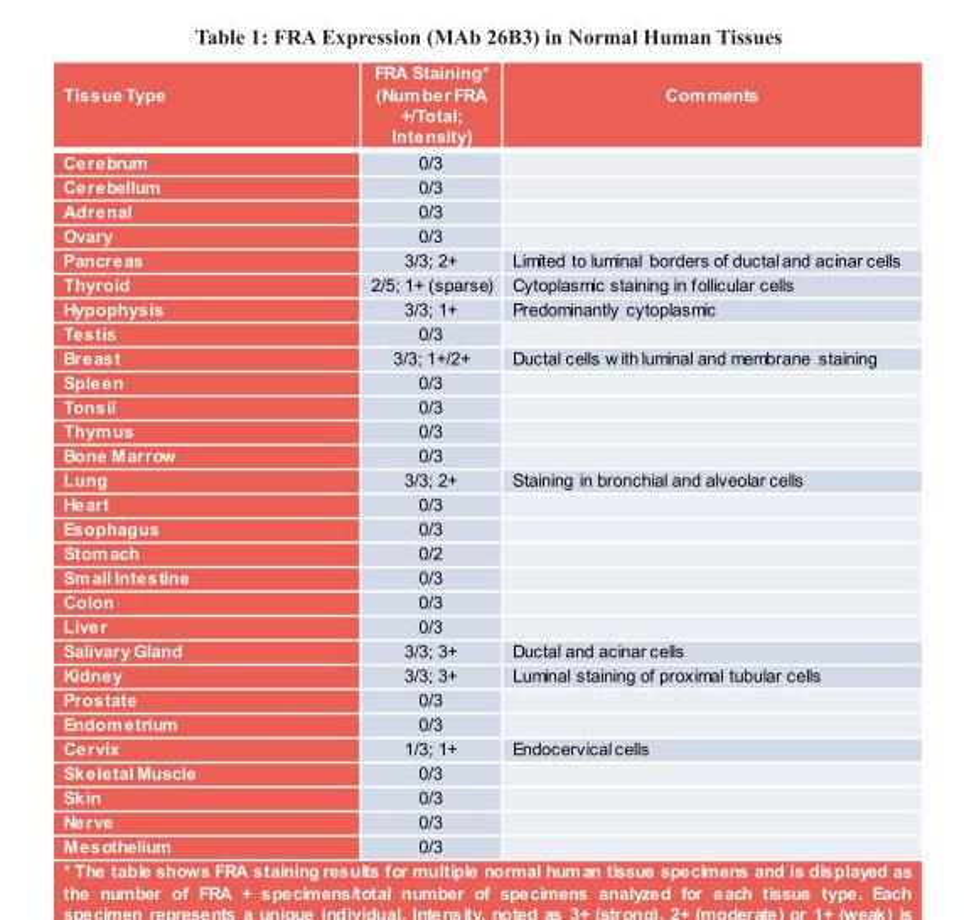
<table><thead><tr><td>Tissue Type</td><td>FRA Staining* (Number FRA +/Total; Intensity)</td><td>Comments</td></tr></thead><tbody><tr><td>Cerebrum</td><td>0/3</td><td></td></tr><tr><td>Cerebellum</td><td>0/3</td><td></td></tr><tr><td>Adrenal</td><td>0/3</td><td></td></tr><tr><td>Ovary</td><td>0/3</td><td></td></tr><tr><td>Pancreas</td><td>3/3; 2+</td><td>Limited to luminal borders of ductaland acinar cells</td></tr><tr><td>Thyroid</td><td>2/5; 1+ (sparse)</td><td>Cytoplasmic staining in follicular cells</td></tr><tr><td>Hypophysis</td><td>3/3; 1+</td><td>Predominantly cytoplasmic</td></tr><tr><td>Testis</td><td>0/3</td><td></td></tr><tr><td>Breast</td><td>3/3; 1+/2+</td><td>Ductal cells w ith luminal and membrane staining</td></tr><tr><td>Spleen</td><td>0/3</td><td></td></tr><tr><td>Tonsil</td><td>0/3</td><td></td></tr><tr><td>Thymus</td><td>0/3</td><td></td></tr><tr><td>Bone Marrow</td><td>0/3</td><td></td></tr><tr><td>Lung</td><td>3/3; 2+</td><td>Staining in bronchial and alveolar cells</td></tr><tr><td>Heart</td><td>0/3</td><td></td></tr><tr><td>Esophagus</td><td>0/3</td><td></td></tr><tr><td>Stomach</td><td>0/2</td><td></td></tr><tr><td>Small Intestine</td><td>0/3</td><td></td></tr><tr><td>Colon</td><td>0/3</td><td></td></tr><tr><td>Liver</td><td>0/3</td><td></td></tr><tr><td>Salivary Gland</td><td>3/3; 3+</td><td>Ductal and acinar cells</td></tr><tr><td>Kidney</td><td>3/3; 3+</td><td>Luminal staining of proximal tubular cells</td></tr><tr><td>Prostate</td><td>0/3</td><td></td></tr><tr><td>Endometrium</td><td>0/3</td><td></td></tr><tr><td>Cervix</td><td>1/3; 1+</td><td>Endocervicalcells</td></tr><tr><td>Skeletal Muscle</td><td>0/3</td><td></td></tr><tr><td>Skin</td><td>0/3</td><td></td></tr><tr><td>Nerve</td><td>0/3</td><td></td></tr><tr><td>Mesothelium</td><td>0/3</td><td></td></tr></tbody></table>